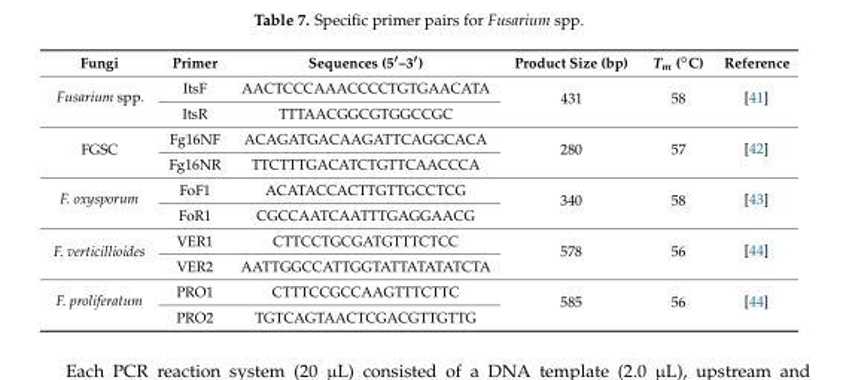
<table><thead><tr><td>Fungi</td><td>Primer</td><td>Sequences (5′–3′)</td><td>Product Size (bp)</td><td>Tm (◦C)</td><td>Reference</td></tr></thead><tbody><tr><td rowspan="2">Fusarium spp.</td><td>ItsF</td><td>AACTCCCAAACCCCTGTGAACATA</td><td rowspan="2">431</td><td rowspan="2">58</td><td rowspan="2">[41]</td></tr><tr><td>ItsR</td><td>TTTAACGGCGTGGCCGC</td></tr><tr><td rowspan="2">FGSC</td><td>Fg16NF</td><td>ACAGATGACAAGATTCAGGCACA</td><td rowspan="2">280</td><td rowspan="2">57</td><td rowspan="2">[42]</td></tr><tr><td>Fg16NR</td><td>TTCTTTGACATCTGTTCAACCCA</td></tr><tr><td rowspan="2">F. oxysporum</td><td>FoF1</td><td>ACATACCACTTGTTGCCTCG</td><td rowspan="2">340</td><td rowspan="2">58</td><td rowspan="2">[43]</td></tr><tr><td>FoR1</td><td>CGCCAATCAATTTGAGGAACG</td></tr><tr><td rowspan="2">F. verticillioides</td><td>VER1</td><td>CTTCCTGCGATGTTTCTCC</td><td rowspan="2">578</td><td rowspan="2">56</td><td rowspan="2">[44]</td></tr><tr><td>VER2</td><td>AATTGGCCATTGGTATTATATATCTA</td></tr><tr><td rowspan="2">F. proliferatum</td><td>PRO1</td><td>CTTTCCGCCAAGTTTCTTC</td><td rowspan="2">585</td><td rowspan="2">56</td><td rowspan="2">[44]</td></tr><tr><td>PRO2</td><td>TGTCAGTAACTCGACGTTGTTG</td></tr></tbody></table>